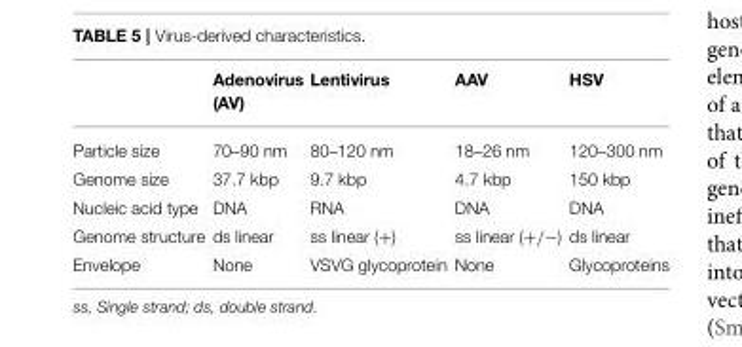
<table><thead><tr><td></td><td>Adenovirus (AV)</td><td>Lentivirus</td><td>AAV</td><td>HSV</td></tr></thead><tbody><tr><td>Particle size</td><td>70–90 nm</td><td>80–120 nm</td><td>18–26 nm</td><td>120–300 nm</td></tr><tr><td>Genome size</td><td>37.7 kbp</td><td>9.7 kbp</td><td>4.7 kbp</td><td>150 kbp</td></tr><tr><td>Nucleic acid type</td><td>DNA</td><td>RNA</td><td>DNA</td><td>DNA</td></tr><tr><td>Genome structure</td><td>ds linear</td><td>ss linear (+)</td><td>ss linear (+/−)</td><td>ds linear</td></tr><tr><td>Envelope</td><td>None</td><td>VSVG glycoprotein</td><td>None</td><td>Glycoproteins</td></tr></tbody></table>